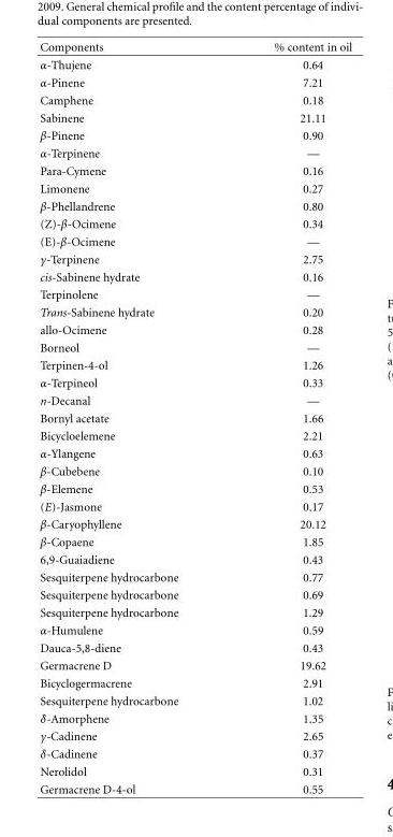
<table><thead><tr><td>Components</td><td>% content in oil</td></tr></thead><tbody><tr><td>α-Thujene</td><td>0.64</td></tr><tr><td>α-Pinene</td><td>7.21</td></tr><tr><td>Camphene</td><td>0.18</td></tr><tr><td>Sabinene</td><td>21.11</td></tr><tr><td>β-Pinene</td><td>0.90</td></tr><tr><td>α-Terpinene</td><td>—</td></tr><tr><td>Para-Cymene</td><td>0.16</td></tr><tr><td>Limonene</td><td>0.27</td></tr><tr><td>β-Phellandrene</td><td>0.80</td></tr><tr><td>(Z)-β-Ocimene</td><td>0.34</td></tr><tr><td>(E)-β-Ocimene</td><td>—</td></tr><tr><td>γ-Terpinene</td><td>2.75</td></tr><tr><td>cis-Sabinene hydrate</td><td>0.16</td></tr><tr><td>Terpinolene</td><td>—</td></tr><tr><td>Trans-Sabinene hydrate</td><td>0.20</td></tr><tr><td>allo-Ocimene</td><td>0.28</td></tr><tr><td>Borneol</td><td>—</td></tr><tr><td>Terpinen-4-ol</td><td>1.26</td></tr><tr><td>α-Terpineol</td><td>0.33</td></tr><tr><td>n-Decanal</td><td>—</td></tr><tr><td>Bornyl acetate</td><td>1.66</td></tr><tr><td>Bicycloelemene</td><td>2.21</td></tr><tr><td>α-Ylangene</td><td>0.63</td></tr><tr><td>β-Cubebene</td><td>0.10</td></tr><tr><td>β-Elemene</td><td>0.53</td></tr><tr><td>(E)-Jasmone</td><td>0.17</td></tr><tr><td>β-Caryophyllene</td><td>20.12</td></tr><tr><td>β-Copaene</td><td>1.85</td></tr><tr><td>6,9-Guaiadiene</td><td>0.43</td></tr><tr><td>Sesquiterpene hydrocarbone</td><td>0.77</td></tr><tr><td>Sesquiterpene hydrocarbone</td><td>0.69</td></tr><tr><td>Sesquiterpene hydrocarbone</td><td>1.29</td></tr><tr><td>α-Humulene</td><td>0.59</td></tr><tr><td>Dauca-5,8-diene</td><td>0.43</td></tr><tr><td>Germacrene D</td><td>19.62</td></tr><tr><td>Bicyclogermacrene</td><td>2.91</td></tr><tr><td>Sesquiterpene hydrocarbone</td><td>1.02</td></tr><tr><td>δ-Amorphene</td><td>1.35</td></tr><tr><td>γ-Cadinene</td><td>2.65</td></tr><tr><td>δ-Cadinene</td><td>0.37</td></tr><tr><td>Nerolidol</td><td>0.31</td></tr><tr><td>Germacrene D-4-ol</td><td>0.55</td></tr></tbody></table>